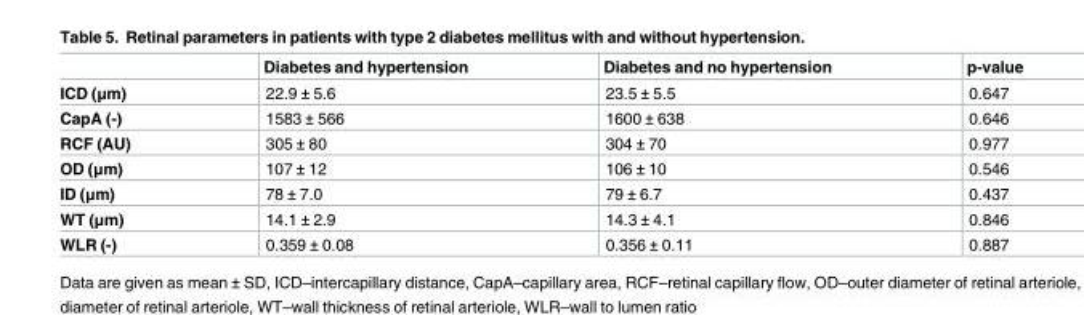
<table><thead><tr><td></td><td>Diabetes and hypertension</td><td>Diabetes and no hypertension</td><td>p-value</td></tr></thead><tbody><tr><td>ICD (μm)</td><td>22.9 ± 5.6</td><td>23.5 ± 5.5</td><td>0.647</td></tr><tr><td>CapA (-)</td><td>1583 ± 566</td><td>1600 ± 638</td><td>0.646</td></tr><tr><td>RCF (AU)</td><td>305 ± 80</td><td>304 ± 70</td><td>0.977</td></tr><tr><td>OD (μm)</td><td>107 ± 12</td><td>106 ± 10</td><td>0.546</td></tr><tr><td>ID (μm)</td><td>78 ± 7.0</td><td>79 ± 6.7</td><td>0.437</td></tr><tr><td>WT (μm)</td><td>14.1 ± 2.9</td><td>14.3 ± 4.1</td><td>0.846</td></tr><tr><td>WLR (-)</td><td>0.359 ± 0.08</td><td>0.356 ± 0.11</td><td>0.887</td></tr></tbody></table>